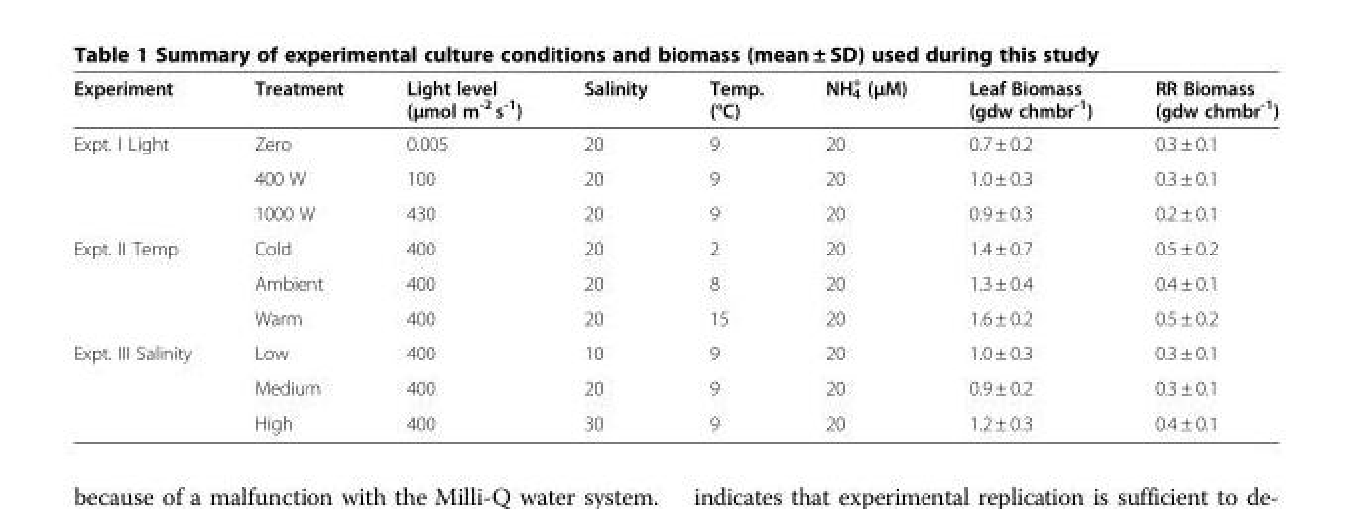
<table><thead><tr><td>Experiment</td><td>Treatment</td><td>Light level (μmol m<sup>-2</sup> s<sup>-1</sup>)</td><td>Salinity</td><td>Temp. (°C)</td><td>NH<sub>4</sub> <sup>+</sup> (μM)</td><td>Leaf Biomass (gdw chmbr<sup>-1</sup>)</td><td>RR Biomass (gdw chmbr<sup>-1</sup>)</td></tr></thead><tbody><tr><td rowspan="3">Expt. I Light</td><td>Zero</td><td>0.005</td><td>20</td><td>9</td><td>20</td><td>0.7 ± 0.2</td><td>0.3 ± 0.1</td></tr><tr><td>400 W</td><td>100</td><td>20</td><td>9</td><td>20</td><td>1.0 ± 0.3</td><td>0.3 ± 0.1</td></tr><tr><td>1000 W</td><td>430</td><td>20</td><td>9</td><td>20</td><td>0.9 ± 0.3</td><td>0.2 ± 0.1</td></tr><tr><td rowspan="3">Expt. II Temp</td><td>Cold</td><td>400</td><td>20</td><td>2</td><td>20</td><td>1.4 ± 0.7</td><td>0.5 ± 0.2</td></tr><tr><td>Ambient</td><td>400</td><td>20</td><td>8</td><td>20</td><td>1.3 ± 0.4</td><td>0.4 ± 0.1</td></tr><tr><td>Warm</td><td>400</td><td>20</td><td>15</td><td>20</td><td>1.6 ± 0.2</td><td>0.5 ± 0.2</td></tr><tr><td rowspan="3">Expt. III Salinity</td><td>Low</td><td>400</td><td>10</td><td>9</td><td>20</td><td>1.0 ± 0.3</td><td>0.3 ± 0.1</td></tr><tr><td>Medium</td><td>400</td><td>20</td><td>9</td><td>20</td><td>0.9 ± 0.2</td><td>0.3 ± 0.1</td></tr><tr><td>High</td><td>400</td><td>30</td><td>9</td><td>20</td><td>1.2 ± 0.3</td><td>0.4 ± 0.1</td></tr></tbody></table>